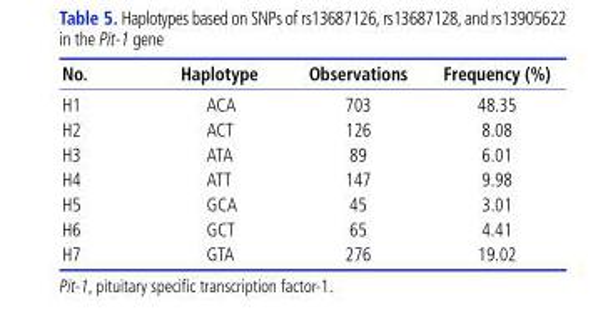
<table><thead><tr><td>No.</td><td>Haplotype</td><td>Observations</td><td>Frequency (%)</td></tr></thead><tbody><tr><td>H1</td><td>ACA</td><td>703</td><td>48.35</td></tr><tr><td>H2</td><td>ACT</td><td>126</td><td>8.08</td></tr><tr><td>H3</td><td>ATA</td><td>89</td><td>6.01</td></tr><tr><td>H4</td><td>ATT</td><td>147</td><td>9.98</td></tr><tr><td>H5</td><td>GCA</td><td>45</td><td>3.01</td></tr><tr><td>H6</td><td>GCT</td><td>65</td><td>4.41</td></tr><tr><td>H7</td><td>GTA</td><td>276</td><td>19.02</td></tr></tbody></table>